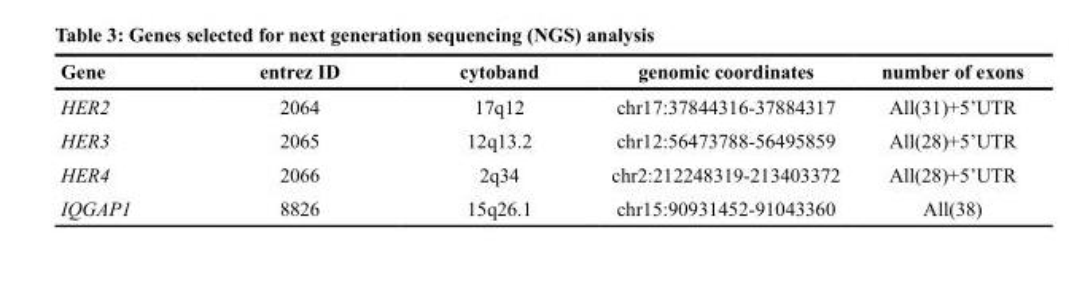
<table><thead><tr><td>Gene</td><td>entrez ID</td><td>cytoband</td><td>genomic coordinates</td><td>number of exons</td></tr></thead><tbody><tr><td>HER2</td><td>2064</td><td>17q12</td><td>chr17:37844316-37884317</td><td>All(31)+5’UTR</td></tr><tr><td>HER3</td><td>2065</td><td>12q13.2</td><td>chr12:56473788-56495859</td><td>All(28)+5’UTR</td></tr><tr><td>HER4</td><td>2066</td><td>2q34</td><td>chr2:212248319-213403372</td><td>All(28)+5’UTR</td></tr><tr><td>IQGAP1</td><td>8826</td><td>15q26.1</td><td>chr15:90931452-91043360</td><td>All(38)</td></tr></tbody></table>